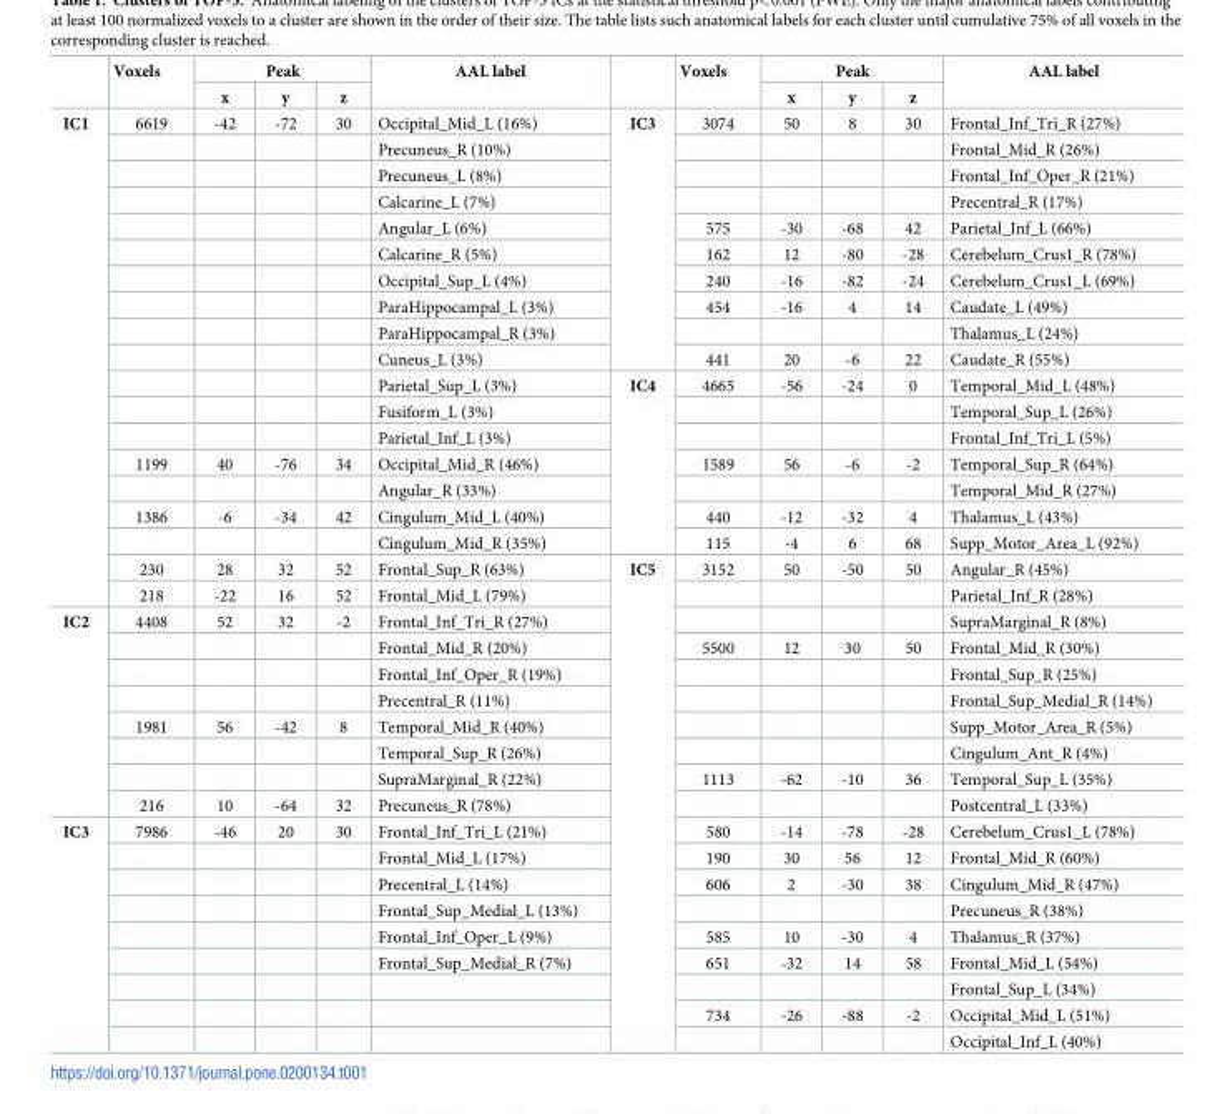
<table><thead><tr><td rowspan="2"></td><td rowspan="2">Voxels</td><td colspan="3">Peak</td><td rowspan="2">AAL label</td><td rowspan="2"></td><td rowspan="2">Voxels</td><td colspan="3">Peak</td><td rowspan="2">AAL label</td></tr><tr><td>x</td><td>y</td><td>z</td><td>x</td><td>y</td><td>z</td></tr></thead><tbody><tr><td rowspan="19">IC1</td><td>6619</td><td>-42</td><td>-72</td><td>30</td><td>Occipital_Mid_L (16%)</td><td rowspan="10">IC3</td><td>3074</td><td>50</td><td>8</td><td>30</td><td>Frontal_Inf_Tri_R (27%)</td></tr><tr><td></td><td></td><td></td><td></td><td>Precuneus_R (10%)</td><td></td><td></td><td></td><td></td><td>Frontal_Mid_R (26%)</td></tr><tr><td></td><td></td><td></td><td></td><td>Precuneus_L (8%)</td><td></td><td></td><td></td><td></td><td>Frontal_Inf_Oper_R (21%)</td></tr><tr><td></td><td></td><td></td><td></td><td>Calcarine_L (7%)</td><td></td><td></td><td></td><td></td><td>Precentral_R (17%)</td></tr><tr><td></td><td></td><td></td><td></td><td>Angular_L (6%)</td><td>575</td><td>-30</td><td>-68</td><td>42</td><td>Parietal_Inf_L (66%)</td></tr><tr><td></td><td></td><td></td><td></td><td>Calcarine_R (5%)</td><td>162</td><td>12</td><td>-80</td><td>-28</td><td>Cerebelum_Crus1_R (78%)</td></tr><tr><td></td><td></td><td></td><td></td><td>Occipital_Sup_L (4%)</td><td>240</td><td>-16</td><td>-82</td><td>-24</td><td>Cerebelum_Crus1_L (69%)</td></tr><tr><td></td><td></td><td></td><td></td><td>ParaHippocampal_L (3%)</td><td>454</td><td>-16</td><td>4</td><td>14</td><td>Caudate_L (49%)</td></tr><tr><td></td><td></td><td></td><td></td><td>ParaHippocampal_R (3%)</td><td></td><td></td><td></td><td></td><td>Thalamus_L (24%)</td></tr><tr><td></td><td></td><td></td><td></td><td>Cuneus_L (3%)</td><td>441</td><td>20</td><td>-6</td><td>22</td><td>Caudate_R (55%)</td></tr><tr><td></td><td></td><td></td><td></td><td>Parietal_Sup_L (3%)</td><td rowspan="7">IC4</td><td>4665</td><td>-56</td><td>-24</td><td>0</td><td>Temporal_Mid_L (48%)</td></tr><tr><td></td><td></td><td></td><td></td><td>Fusiform_L (3%)</td><td></td><td></td><td></td><td></td><td>Temporal_Sup_L (26%)</td></tr><tr><td></td><td></td><td></td><td></td><td>Parietal_Inf_L (3%)</td><td></td><td></td><td></td><td></td><td>Frontal_Inf_Tri_L (5%)</td></tr><tr><td>1199</td><td>40</td><td>-76</td><td>34</td><td>Occipital_Mid_R (46%)</td><td>1589</td><td>56</td><td>-6</td><td>-2</td><td>Temporal_Sup_R (64%)</td></tr><tr><td></td><td></td><td></td><td></td><td>Angular_R (33%)</td><td></td><td></td><td></td><td></td><td>Temporal_Mid_R (27%)</td></tr><tr><td>1386</td><td>-6</td><td>-34</td><td>42</td><td>Cingulum_Mid_L (40%)</td><td>440</td><td>-12</td><td>-32</td><td>4</td><td>Thalamus_L (43%)</td></tr><tr><td></td><td></td><td></td><td></td><td>Cingulum_Mid_R (35%)</td><td>115</td><td>-4</td><td>6</td><td>68</td><td>Supp_Motor_Area_L (92%)</td></tr><tr><td>230</td><td>28</td><td>32</td><td>52</td><td>Frontal_Sup_R (63%)</td><td rowspan="19">IC5</td><td>3152</td><td>50</td><td>-50</td><td>50</td><td>Angular_R (45%)</td></tr><tr><td>218</td><td>-22</td><td>16</td><td>52</td><td>Frontal_Mid_L (79%)</td><td></td><td></td><td></td><td></td><td>Parietal_Inf_R (28%)</td></tr><tr><td rowspan="8">IC2</td><td>4408</td><td>52</td><td>32</td><td>-2</td><td>Frontal_Inf_Tri_R (27%)</td><td></td><td></td><td></td><td></td><td>SupraMarginal_R (8%)</td></tr><tr><td></td><td></td><td></td><td></td><td>Frontal_Mid_R (20%)</td><td>5500</td><td>12</td><td>30</td><td>50</td><td>Frontal_Mid_R (30%)</td></tr><tr><td></td><td></td><td></td><td></td><td>Frontal_Inf_Oper_R (19%)</td><td></td><td></td><td></td><td></td><td>Frontal_Sup_R (25%)</td></tr><tr><td></td><td></td><td></td><td></td><td>Precentral_R (11%)</td><td></td><td></td><td></td><td></td><td>Frontal_Sup_Medial_R (14%)</td></tr><tr><td>1981</td><td>56</td><td>-42</td><td>8</td><td>Temporal_Mid_R (40%)</td><td></td><td></td><td></td><td></td><td>Supp_Motor_Area_R (5%)</td></tr><tr><td></td><td></td><td></td><td></td><td>Temporal_Sup_R (26%)</td><td></td><td></td><td></td><td></td><td>Cingulum_Ant_R (4%)</td></tr><tr><td></td><td></td><td></td><td></td><td>SupraMarginal_R (22%)</td><td>1113</td><td>-62</td><td>-10</td><td>36</td><td>Temporal_Sup_L (35%)</td></tr><tr><td>216</td><td>10</td><td>-64</td><td>32</td><td>Precuneus_R (78%)</td><td></td><td></td><td></td><td></td><td>Postcentral_L (33%)</td></tr><tr><td rowspan="9">IC3</td><td>7986</td><td>-46</td><td>20</td><td>30</td><td>Frontal_Inf_Tri_L (21%)</td><td>580</td><td>-14</td><td>-78</td><td>-28</td><td>Cerebelum_Crus1_L (78%)</td></tr><tr><td></td><td></td><td></td><td></td><td>Frontal_Mid_L (17%)</td><td>190</td><td>30</td><td>56</td><td>12</td><td>Frontal_Mid_R (60%)</td></tr><tr><td></td><td></td><td></td><td></td><td>Precentral_L (14%)</td><td>606</td><td>2</td><td>-30</td><td>38</td><td>Cingulum_Mid_R (47%)</td></tr><tr><td></td><td></td><td></td><td></td><td>Frontal_Sup_Medial_L (13%)</td><td></td><td></td><td></td><td></td><td>Precuneus_R (38%)</td></tr><tr><td></td><td></td><td></td><td></td><td>Frontal_Inf_Oper_L (9%)</td><td>585</td><td>10</td><td>-30</td><td>4</td><td>Thalamus_R (37%)</td></tr><tr><td></td><td></td><td></td><td></td><td>Frontal_Sup_Medial_R (7%)</td><td>651</td><td>-32</td><td>14</td><td>58</td><td>Frontal_Mid_L (54%)</td></tr><tr><td></td><td></td><td></td><td></td><td></td><td></td><td></td><td></td><td></td><td>Frontal_Sup_L (34%)</td></tr><tr><td></td><td></td><td></td><td></td><td></td><td>734</td><td>-26</td><td>-88</td><td>-2</td><td>Occipital_Mid_L (51%)</td></tr><tr><td></td><td></td><td></td><td></td><td></td><td></td><td></td><td></td><td></td><td>Occipital_Inf_L (40%)</td></tr></tbody></table>